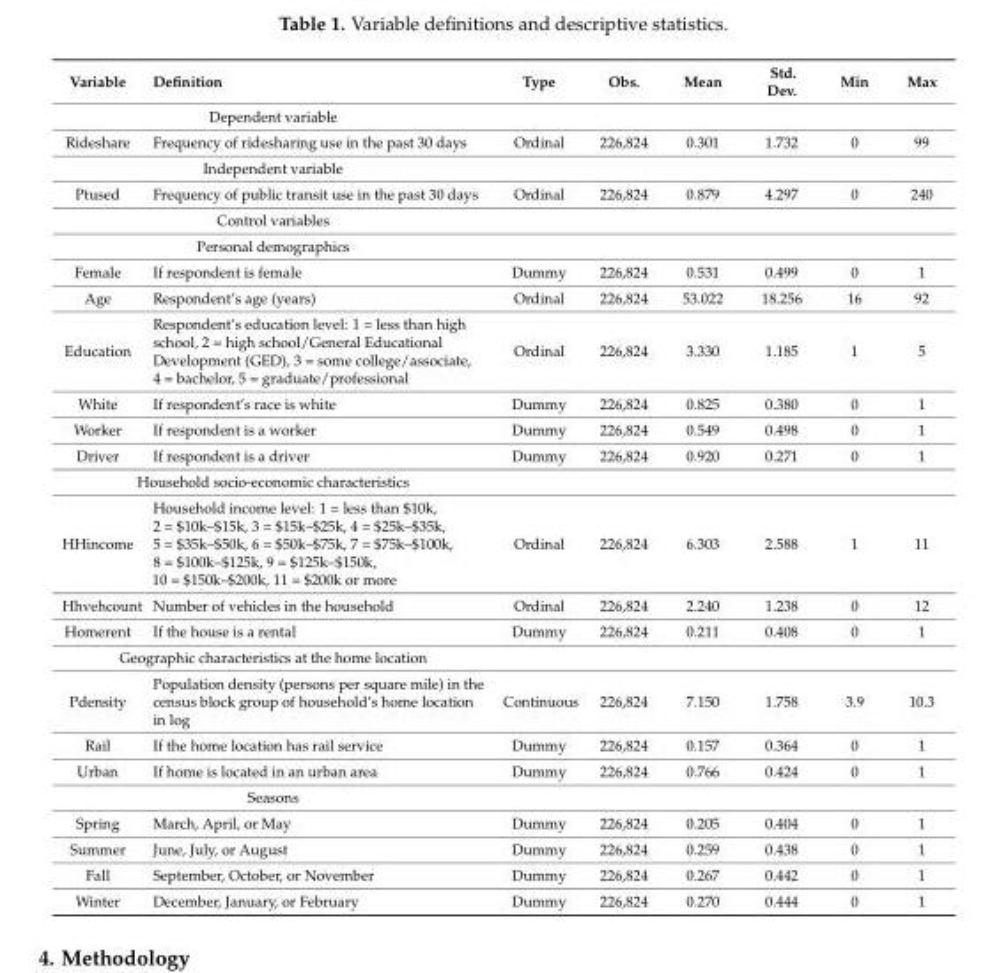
<table><thead><tr><td>Variable</td><td>Definition</td><td>Type</td><td>Obs.</td><td>Mean</td><td>Std. Dev.</td><td>Min</td><td>Max</td></tr></thead><tbody><tr><td colspan="8">Dependent variable</td></tr><tr><td>Rideshare</td><td>Frequency of ridesharing use in the past 30 days</td><td>Ordinal</td><td>226,824</td><td>0.301</td><td>1.732</td><td>0</td><td>99</td></tr><tr><td colspan="8">Independent variable</td></tr><tr><td>Ptused</td><td>Frequency of public transit use in the past 30 days</td><td>Ordinal</td><td>226,824</td><td>0.879</td><td>4.297</td><td>0</td><td>240</td></tr><tr><td colspan="8">Control variables</td></tr><tr><td colspan="8">Personal demographics</td></tr><tr><td>Female</td><td>If respondent is female</td><td>Dummy</td><td>226,824</td><td>0.531</td><td>0.499</td><td>0</td><td>1</td></tr><tr><td>Age</td><td>Respondent’s age (years)</td><td>Ordinal</td><td>226,824</td><td>53.022</td><td>18.256</td><td>16</td><td>92</td></tr><tr><td>Education</td><td>Respondent’s education level: 1 = less than high school, 2 = high school/General Educational Development (GED), 3 = some college/associate, 4 = bachelor, 5 = graduate/professional</td><td>Ordinal</td><td>226,824</td><td>3.330</td><td>1.185</td><td>1</td><td>5</td></tr><tr><td>White</td><td>If respondent’s race is white</td><td>Dummy</td><td>226,824</td><td>0.825</td><td>0.380</td><td>0</td><td>1</td></tr><tr><td>Worker</td><td>If respondent is a worker</td><td>Dummy</td><td>226,824</td><td>0.549</td><td>0.498</td><td>0</td><td>1</td></tr><tr><td>Driver</td><td>If respondent is a driver</td><td>Dummy</td><td>226,824</td><td>0.920</td><td>0.271</td><td>0</td><td>1</td></tr><tr><td colspan="8">Household socio-economic characteristics</td></tr><tr><td>HHincome</td><td>Household income level: 1 = less than $10k, 2 = $10k–$15k, 3 = $15k–$25k, 4 = $25k–$35k, 5 = $35k–$50k, 6 = $50k–$75k, 7 = $75k–$100k, 8 = $100k–$125k, 9 = $125k–$150k, 10 = $150k–$200k, 11 = $200k or more</td><td>Ordinal</td><td>226,824</td><td>6.303</td><td>2.588</td><td>1</td><td>11</td></tr><tr><td>Hhvehcount</td><td>Number of vehicles in the household</td><td>Ordinal</td><td>226,824</td><td>2.240</td><td>1.238</td><td>0</td><td>12</td></tr><tr><td>Homerent</td><td>If the house is a rental</td><td>Dummy</td><td>226,824</td><td>0.211</td><td>0.408</td><td>0</td><td>1</td></tr><tr><td colspan="8">Geographic characteristics at the home location</td></tr><tr><td>Pdensity</td><td>Population density (persons per square mile) in the census block group of household’s home location in log</td><td>Continuous</td><td>226,824</td><td>7.150</td><td>1.758</td><td>3.9</td><td>10.3</td></tr><tr><td>Rail</td><td>If the home location has rail service</td><td>Dummy</td><td>226,824</td><td>0.157</td><td>0.364</td><td>0</td><td>1</td></tr><tr><td>Urban</td><td>If home is located in an urban area</td><td>Dummy</td><td>226,824</td><td>0.766</td><td>0.424</td><td>0</td><td>1</td></tr><tr><td colspan="8">Seasons</td></tr><tr><td>Spring</td><td>March, April, or May</td><td>Dummy</td><td>226,824</td><td>0.205</td><td>0.404</td><td>0</td><td>1</td></tr><tr><td>Summer</td><td>June, July, or August</td><td>Dummy</td><td>226,824</td><td>0.259</td><td>0.438</td><td>0</td><td>1</td></tr><tr><td>Fall</td><td>September, October, or November</td><td>Dummy</td><td>226,824</td><td>0.267</td><td>0.442</td><td>0</td><td>1</td></tr><tr><td>Winter</td><td>December, January, or February</td><td>Dummy</td><td>226,824</td><td>0.270</td><td>0.444</td><td>0</td><td>1</td></tr></tbody></table>